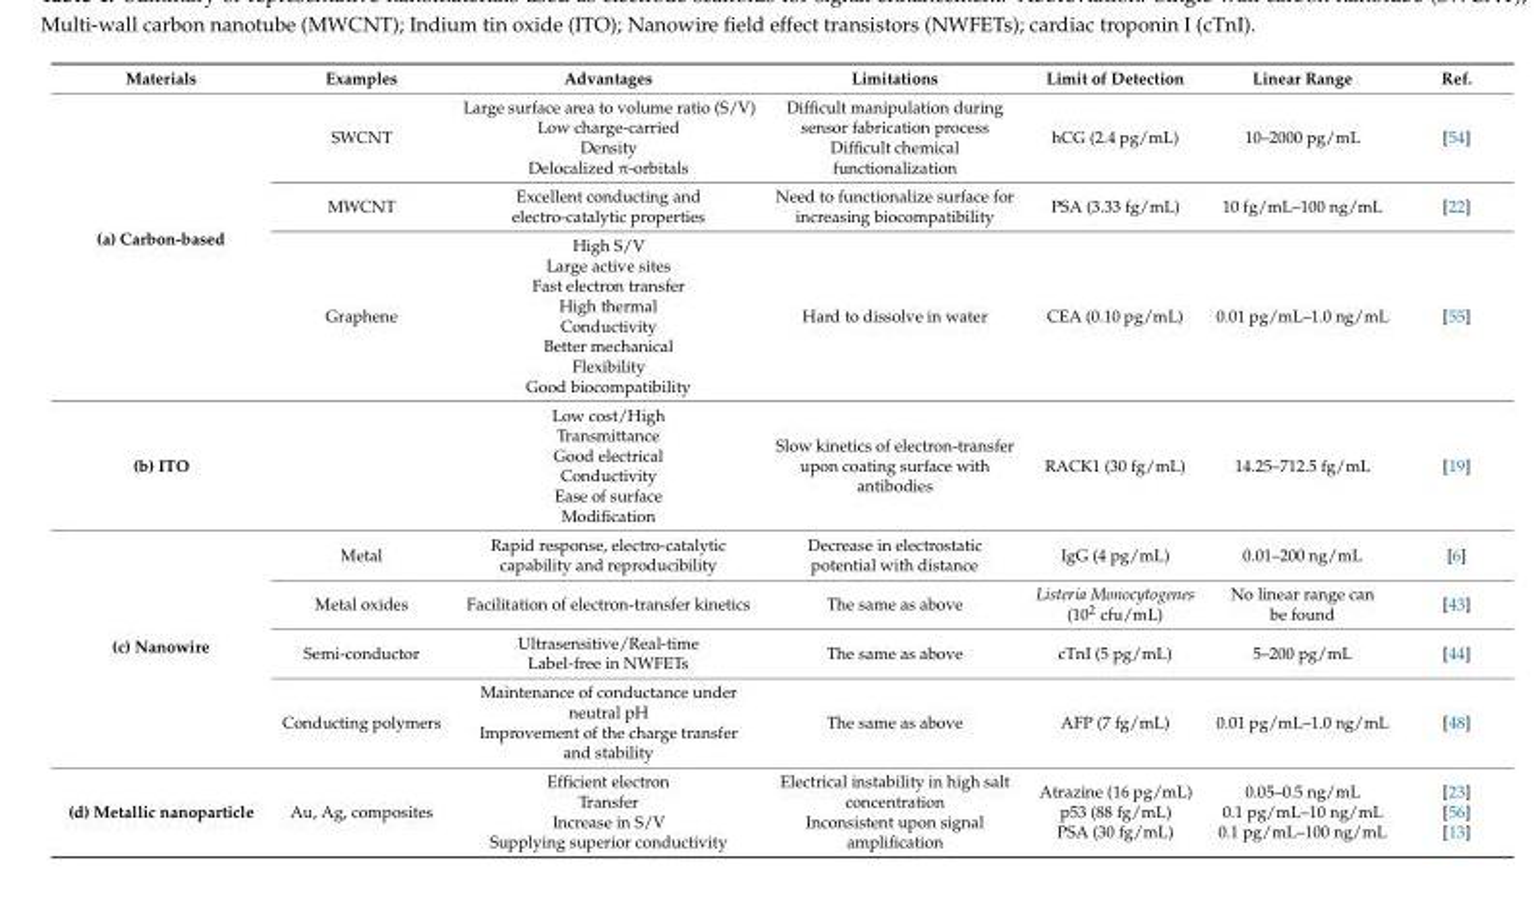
<table><thead><tr><td>Materials</td><td>Examples</td><td>Advantages</td><td>Limitations</td><td>Limit of Detection</td><td>Linear Range</td><td>Ref.</td></tr></thead><tbody><tr><td rowspan="3">(a) Carbon-based</td><td>SWCNT</td><td>Large surface area to volume ratio (S/V) Low charge-carried Density Delocalized π-orbitals</td><td>Difficult manipulation during sensor fabrication process Difficult chemical functionalization</td><td>hCG (2.4 pg/mL)</td><td>10–2000 pg/mL</td><td>[54]</td></tr><tr><td>MWCNT</td><td>Excellent conducting and electro-catalytic properties</td><td>Need to functionalize surface for increasing biocompatibility</td><td>PSA (3.33 fg/mL)</td><td>10 fg/mL–100 ng/mL</td><td>[22]</td></tr><tr><td>Graphene</td><td>High S/V Large active sites Fast electron transfer High thermal Conductivity Better mechanical Flexibility Good biocompatibility</td><td>Hard to dissolve in water</td><td>CEA (0.10 pg/mL)</td><td>0.01 pg/mL–1.0 ng/mL</td><td>[55]</td></tr><tr><td>(b) ITO</td><td></td><td>Low cost/High Transmittance Good electrical Conductivity Ease of surface Modification</td><td>Slow kinetics of electron-transfer upon coating surface with antibodies</td><td>RACK1 (30 fg/mL)</td><td>14.25–712.5 fg/mL</td><td>[19]</td></tr><tr><td rowspan="4">(c) Nanowire</td><td>Metal</td><td>Rapid response, electro-catalytic capability and reproducibility</td><td>Decrease in electrostatic potential with distance</td><td>IgG (4 pg/mL)</td><td>0.01–200 ng/mL</td><td>[6]</td></tr><tr><td>Metal oxides</td><td>Facilitation of electron-transfer kinetics</td><td>The same as above</td><td>Listeria Monocytogenes (10<sup>2</sup> cfu/mL)</td><td>No linear range can be found</td><td>[43]</td></tr><tr><td>Semi-conductor</td><td>Ultrasensitive/Real-time Label-free in NWFETs</td><td>The same as above</td><td>cTnI (5 pg/mL)</td><td>5–200 pg/mL</td><td>[44]</td></tr><tr><td>Conducting polymers</td><td>Maintenance of conductance under neutral pH Improvement of the charge transfer and stability</td><td>The same as above</td><td>AFP (7 fg/mL)</td><td>0.01 pg/mL–1.0 ng/mL</td><td>[48]</td></tr><tr><td>(d) Metallic nanoparticle</td><td>Au, Ag, composites</td><td>Efficient electron Transfer Increase in S/V Supplying superior conductivity</td><td>Electrical instability in high salt concentration Inconsistent upon signal amplification</td><td>Atrazine (16 pg/mL) p53 (88 fg/mL) PSA (30 fg/mL)</td><td>0.05–0.5 ng/mL 0.1 pg/mL–10 ng/mL 0.1 pg/mL–100 ng/mL</td><td>[23] [56] [13]</td></tr></tbody></table>